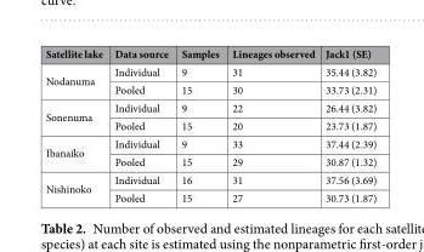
<table><thead><tr><td>Satellite lake</td><td>Data source</td><td>Samples</td><td>Lineages observed</td><td>Jack1 (SE)</td></tr></thead><tbody><tr><td rowspan="2">Nodanuma</td><td>Individual</td><td>9</td><td>31</td><td>35.44 (3.82)</td></tr><tr><td>Pooled</td><td>15</td><td>30</td><td>33.73 (2.31)</td></tr><tr><td rowspan="2">Sonenuma</td><td>Individual</td><td>9</td><td>22</td><td>26.44 (3.82)</td></tr><tr><td>Pooled</td><td>15</td><td>20</td><td>23.73 (1.87)</td></tr><tr><td rowspan="2">Ibanaiko</td><td>Individual</td><td>9</td><td>33</td><td>37.44 (2.39)</td></tr><tr><td>Pooled</td><td>15</td><td>29</td><td>30.87 (1.32)</td></tr><tr><td rowspan="2">Nishinoko</td><td>Individual</td><td>16</td><td>31</td><td>37.56 (3.69)</td></tr><tr><td>Pooled</td><td>15</td><td>27</td><td>30.73 (1.87)</td></tr></tbody></table>